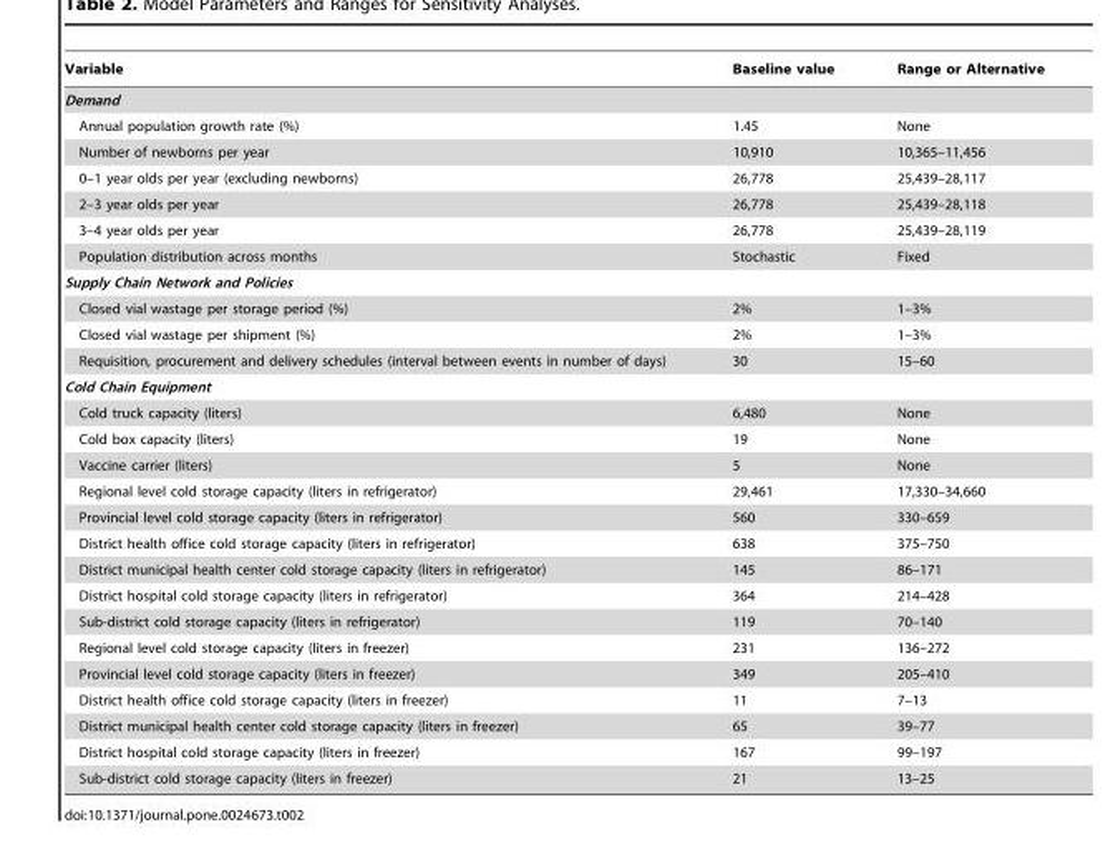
<table><thead><tr><td>Variable</td><td>Baseline value</td><td>Range or Alternative</td></tr></thead><tbody><tr><td colspan="3">Demand</td></tr><tr><td>Annual population growth rate (%)</td><td>1.45</td><td>None</td></tr><tr><td>Number of newborns per year</td><td>10,910</td><td>10,365–11,456</td></tr><tr><td>0–1 year olds per year (excluding newborns)</td><td>26,778</td><td>25,439–28,117</td></tr><tr><td>2–3 year olds per year</td><td>26,778</td><td>25,439–28,118</td></tr><tr><td>3–4 year olds per year</td><td>26,778</td><td>25,439–28,119</td></tr><tr><td>Population distribution across months</td><td>Stochastic</td><td>Fixed</td></tr><tr><td colspan="3">Supply Chain Network and Policies</td></tr><tr><td>Closed vial wastage per storage period (%)</td><td>2%</td><td>1–3%</td></tr><tr><td>Closed vial wastage per shipment (%)</td><td>2%</td><td>1–3%</td></tr><tr><td>Requisition, procurement and delivery schedules (interval between events in number of days)</td><td>30</td><td>15–60</td></tr><tr><td colspan="3">Cold Chain Equipment</td></tr><tr><td>Cold truck capacity (liters)</td><td>6,480</td><td>None</td></tr><tr><td>Cold box capacity (liters)</td><td>19</td><td>None</td></tr><tr><td>Vaccine carrier (liters)</td><td>5</td><td>None</td></tr><tr><td>Regional level cold storage capacity (liters in refrigerator)</td><td>29,461</td><td>17,330–34,660</td></tr><tr><td>Provincial level cold storage capacity (liters in refrigerator)</td><td>560</td><td>330–659</td></tr><tr><td>District health office cold storage capacity (liters in refrigerator)</td><td>638</td><td>375–750</td></tr><tr><td>District municipal health center cold storage capacity (liters in refrigerator)</td><td>145</td><td>86–171</td></tr><tr><td>District hospital cold storage capacity (liters in refrigerator)</td><td>364</td><td>214–428</td></tr><tr><td>Sub-district cold storage capacity (liters in refrigerator)</td><td>119</td><td>70–140</td></tr><tr><td>Regional level cold storage capacity (liters in freezer)</td><td>231</td><td>136–272</td></tr><tr><td>Provincial level cold storage capacity (liters in freezer)</td><td>349</td><td>205–410</td></tr><tr><td>District health office cold storage capacity (liters in freezer)</td><td>11</td><td>7–13</td></tr><tr><td>District municipal health center cold storage capacity (liters in freezer)</td><td>65</td><td>39–77</td></tr><tr><td>District hospital cold storage capacity (liters in freezer)</td><td>167</td><td>99–197</td></tr><tr><td>Sub-district cold storage capacity (liters in freezer)</td><td>21</td><td>13–25</td></tr></tbody></table>